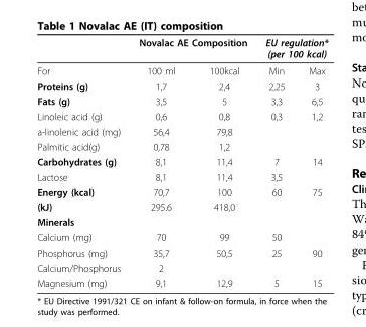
<table><thead><tr><td rowspan="2">For</td><td colspan="2">Novalac AE Composition</td><td colspan="2">EU regulation* (per 100 kcal)</td></tr><tr><td>100 ml</td><td>100kcal</td><td>Min</td><td>Max</td></tr></thead><tbody><tr><td>Proteins (g)</td><td>1,7</td><td>2,4</td><td>2,25</td><td>3</td></tr><tr><td>Fats (g)</td><td>3,5</td><td>5</td><td>3,3</td><td>6,5</td></tr><tr><td>Linoleic acid (g)</td><td>0,6</td><td>0,8</td><td>0,3</td><td>1,2</td></tr><tr><td>a-linolenic acid (mg)</td><td>56,4</td><td>79,8</td><td></td><td></td></tr><tr><td>Palmitic acid(g)</td><td>0,78</td><td>1,2</td><td></td><td></td></tr><tr><td>Carbohydrates (g)</td><td>8,1</td><td>11,4</td><td>7</td><td>14</td></tr><tr><td>Lactose</td><td>8,1</td><td>11,4</td><td>3,5</td><td></td></tr><tr><td>Energy (kcal)</td><td>70,7</td><td>100</td><td>60</td><td>75</td></tr><tr><td>(kJ)</td><td>295.6</td><td>418,0</td><td></td><td></td></tr><tr><td colspan="5">Minerals</td></tr><tr><td>Calcium (mg)</td><td>70</td><td>99</td><td>50</td><td></td></tr><tr><td>Phosphorus (mg)</td><td>35,7</td><td>50,5</td><td>25</td><td>90</td></tr><tr><td>Calcium/Phosphorus</td><td>2</td><td></td><td></td><td></td></tr><tr><td>Magnesium (mg)</td><td>9,1</td><td>12,9</td><td>5</td><td>15</td></tr></tbody></table>